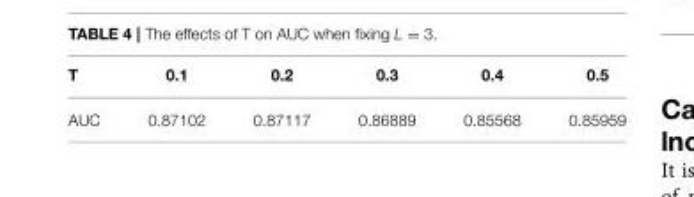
<table><thead><tr><td>T</td><td>0.1</td><td>0.2</td><td>0.3</td><td>0.4</td><td>0.5</td></tr></thead><tbody><tr><td>AUC</td><td>0.87102</td><td>0.87117</td><td>0.86889</td><td>0.85568</td><td>0.85959</td></tr></tbody></table>